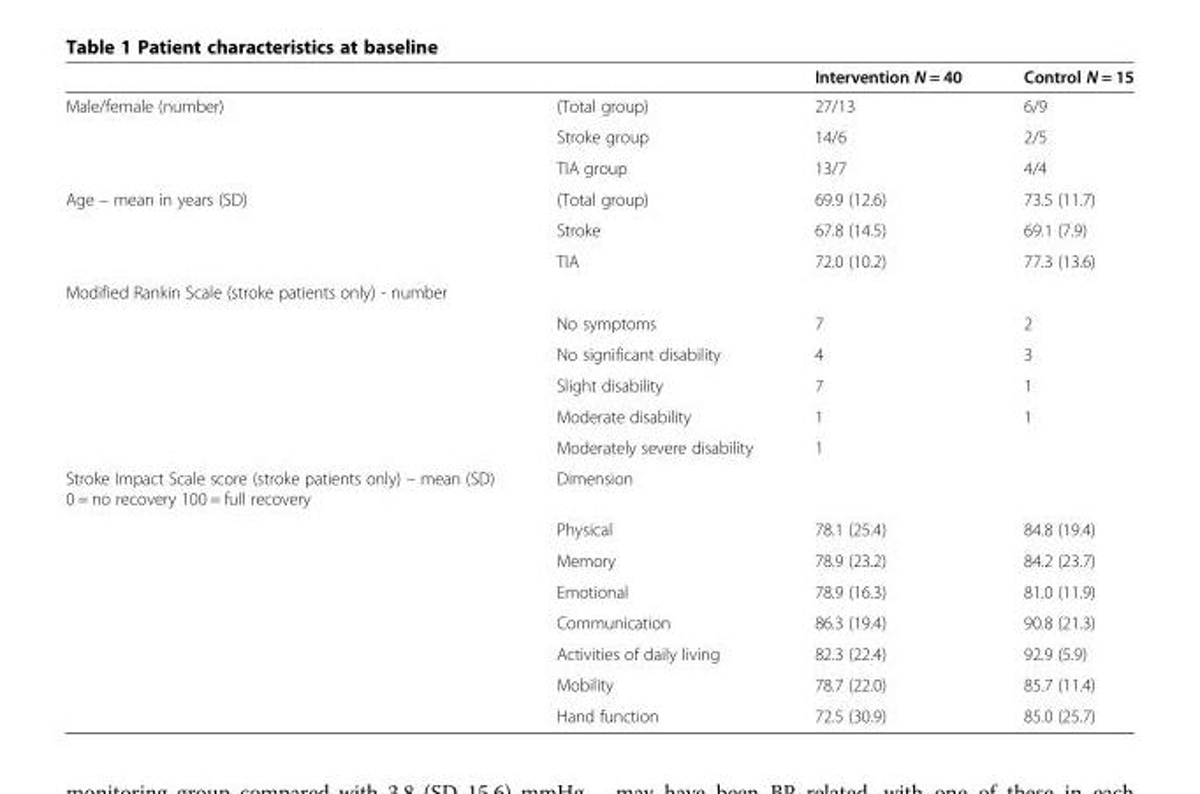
<table><thead><tr><td></td><td></td><td>Intervention N = 40</td><td>Control N = 15</td></tr></thead><tbody><tr><td rowspan="3">Male/female (number)</td><td>(Total group)</td><td>27/13</td><td>6/9</td></tr><tr><td>Stroke group</td><td>14/6</td><td>2/5</td></tr><tr><td>TIA group</td><td>13/7</td><td>4/4</td></tr><tr><td rowspan="3">Age – mean in years (SD)</td><td>(Total group)</td><td>69.9 (12.6)</td><td>73.5 (11.7)</td></tr><tr><td>Stroke</td><td>67.8 (14.5)</td><td>69.1 (7.9)</td></tr><tr><td>TIA</td><td>72.0 (10.2)</td><td>77.3 (13.6)</td></tr><tr><td colspan="4">Modified Rankin Scale (stroke patients only) - number</td></tr><tr><td></td><td>No symptoms</td><td>7</td><td>2</td></tr><tr><td></td><td>No significant disability</td><td>4</td><td>3</td></tr><tr><td></td><td>Slight disability</td><td>7</td><td>1</td></tr><tr><td></td><td>Moderate disability</td><td>1</td><td>1</td></tr><tr><td></td><td>Moderately severe disability</td><td>1</td><td></td></tr><tr><td rowspan="8">Stroke Impact Scale score (stroke patients only) – mean (SD) 0 = no recovery 100 = full recovery</td><td>Dimension</td><td></td><td></td></tr><tr><td>Physical</td><td>78.1 (25.4)</td><td>84.8 (19.4)</td></tr><tr><td>Memory</td><td>78.9 (23.2)</td><td>84.2 (23.7)</td></tr><tr><td>Emotional</td><td>78.9 (16.3)</td><td>81.0 (11.9)</td></tr><tr><td>Communication</td><td>86.3 (19.4)</td><td>90.8 (21.3)</td></tr><tr><td>Activities of daily living</td><td>82.3 (22.4)</td><td>92.9 (5.9)</td></tr><tr><td>Mobility</td><td>78.7 (22.0)</td><td>85.7 (11.4)</td></tr><tr><td>Hand function</td><td>72.5 (30.9)</td><td>85.0 (25.7)</td></tr></tbody></table>